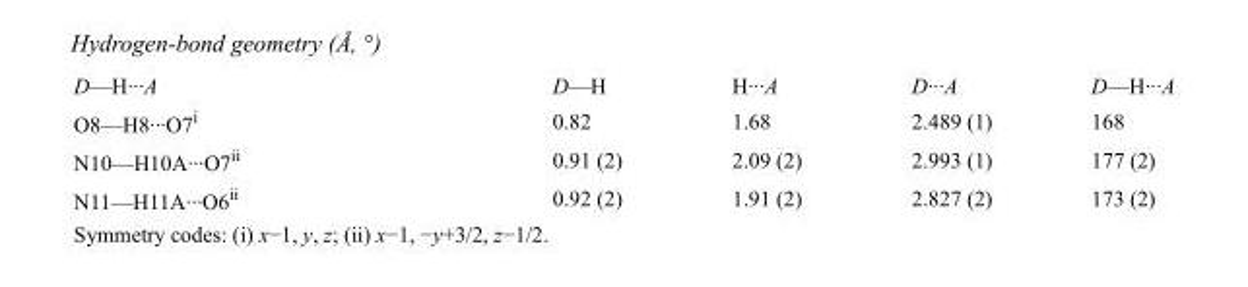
<table><tbody><tr><td>D—H···A</td><td>D—H</td><td>H···A</td><td>D···A</td><td>D—H···A</td></tr><tr><td>O8—H8···O7<sup>i</sup></td><td>0.82</td><td>1.68</td><td>2.489 (1)</td><td>168</td></tr><tr><td>N10—H10A···O7<sup>ii</sup></td><td>0.91 (2)</td><td>2.09 (2)</td><td>2.993 (1)</td><td>177 (2)</td></tr><tr><td>N11—H11A···O6<sup>ii</sup></td><td>0.92 (2)</td><td>1.91 (2)</td><td>2.827 (2)</td><td>173 (2)</td></tr></tbody></table>